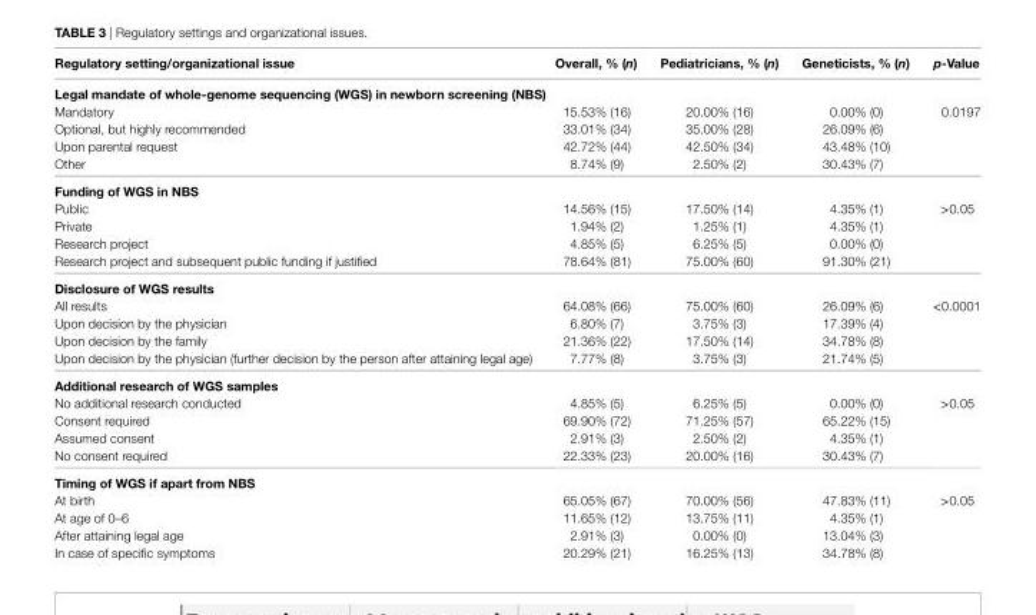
<table><thead><tr><td>regulatory setting/organizational issue</td><td>Overall, % (n)</td><td>Pediatricians, % (n)</td><td>geneticists, % (n)</td><td>p-Value</td></tr></thead><tbody><tr><td colspan="5">legal mandate of whole-genome sequencing (Wgs) in newborn screening (nBs)</td></tr><tr><td>Mandatory</td><td>15.53% (16)</td><td>20.00% (16)</td><td>0.00% (0)</td><td rowspan="4">0.0197</td></tr><tr><td>Optional, but highly recommended</td><td>33.01% (34)</td><td>35.00% (28)</td><td>26.09% (6)</td></tr><tr><td>Upon parental request</td><td>42.72% (44)</td><td>42.50% (34)</td><td>43.48% (10)</td></tr><tr><td>Other</td><td>8.74% (9)</td><td>2.50% (2)</td><td>30.43% (7)</td></tr><tr><td colspan="5">Funding of Wgs in nBs</td></tr><tr><td>Public</td><td>14.56% (15)</td><td>17.50% (14)</td><td>4.35% (1)</td><td rowspan="4">&gt;0.05</td></tr><tr><td>Private</td><td>1.94% (2)</td><td>1.25% (1)</td><td>4.35% (1)</td></tr><tr><td>Research project</td><td>4.85% (5)</td><td>6.25% (5)</td><td>0.00% (0)</td></tr><tr><td>Research project and subsequent public funding if justified</td><td>78.64% (81)</td><td>75.00% (60)</td><td>91.30% (21)</td></tr><tr><td colspan="5">Disclosure of Wgs results</td></tr><tr><td>All results</td><td>64.08% (66)</td><td>75.00% (60)</td><td>26.09% (6)</td><td rowspan="4">&lt;0.0001</td></tr><tr><td>Upon decision by the physician</td><td>6.80% (7)</td><td>3.75% (3)</td><td>17.39% (4)</td></tr><tr><td>Upon decision by the family</td><td>21.36% (22)</td><td>17.50% (14)</td><td>34.78% (8)</td></tr><tr><td>Upon decision by the physician (further decision by the person after attaining legal age)</td><td>7.77% (8)</td><td>3.75% (3)</td><td>21.74% (5)</td></tr><tr><td colspan="5">additional research of Wgs samples</td></tr><tr><td>No additional research conducted</td><td>4.85% (5)</td><td>6.25% (5)</td><td>0.00% (0)</td><td rowspan="4">&gt;0.05</td></tr><tr><td>Consent required</td><td>69.90% (72)</td><td>71.25% (57)</td><td>65.22% (15)</td></tr><tr><td>Assumed consent</td><td>2.91% (3)</td><td>2.50% (2)</td><td>4.35% (1)</td></tr><tr><td>No consent required</td><td>22.33% (23)</td><td>20.00% (16)</td><td>30.43% (7)</td></tr><tr><td colspan="5">Timing of Wgs if apart from nBs</td></tr><tr><td>At birth</td><td>65.05% (67)</td><td>70.00% (56)</td><td>47.83% (11)</td><td rowspan="4">&gt;0.05</td></tr><tr><td>At age of 0–6</td><td>11.65% (12)</td><td>13.75% (11)</td><td>4.35% (1)</td></tr><tr><td>After attaining legal age</td><td>2.91% (3)</td><td>0.00% (0)</td><td>13.04% (3)</td></tr><tr><td>In case of specific symptoms</td><td>20.29% (21)</td><td>16.25% (13)</td><td>34.78% (8)</td></tr></tbody></table>